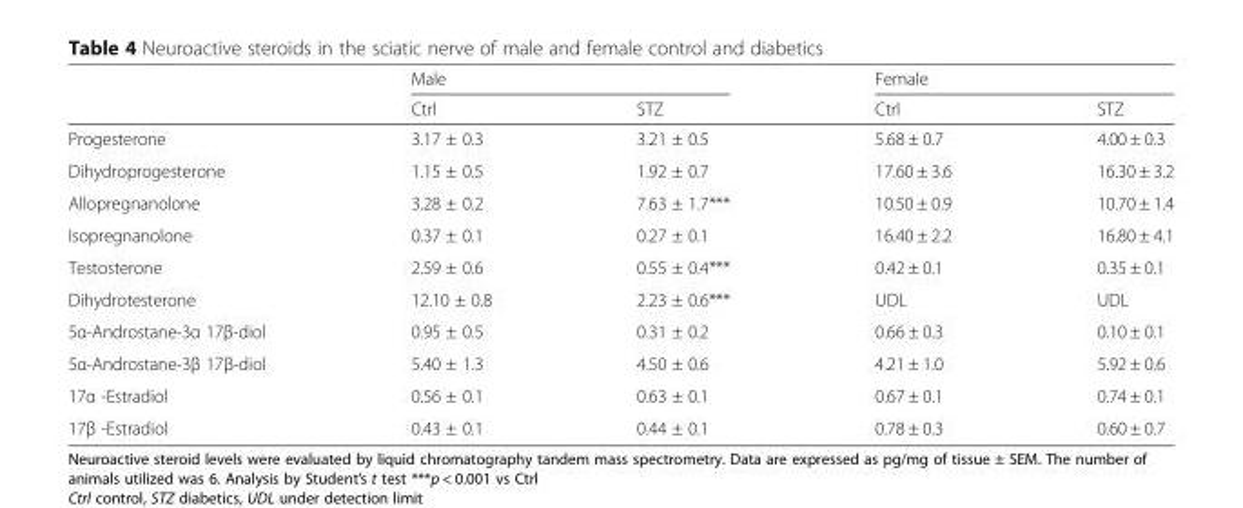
<table><thead><tr><td rowspan="2"></td><td colspan="2">Male</td><td colspan="2">Female</td></tr><tr><td>Ctrl</td><td>STZ</td><td>Ctrl</td><td>STZ</td></tr></thead><tbody><tr><td>Progesterone</td><td>3.17 ± 0.3</td><td>3.21 ± 0.5</td><td>5.68 ± 0.7</td><td>4.00 ± 0.3</td></tr><tr><td>Dihydroprogesterone</td><td>1.15 ± 0.5</td><td>1.92 ± 0.7</td><td>17.60 ± 3.6</td><td>16.30 ± 3.2</td></tr><tr><td>Allopregnanolone</td><td>3.28 ± 0.2</td><td>7.63 ± 1.7***</td><td>10.50 ± 0.9</td><td>10.70 ± 1.4</td></tr><tr><td>Isopregnanolone</td><td>0.37 ± 0.1</td><td>0.27 ± 0.1</td><td>16.40 ± 2.2</td><td>16.80 ± 4.1</td></tr><tr><td>Testosterone</td><td>2.59 ± 0.6</td><td>0.55 ± 0.4***</td><td>0.42 ± 0.1</td><td>0.35 ± 0.1</td></tr><tr><td>Dihydrotesterone</td><td>12.10 ± 0.8</td><td>2.23 ± 0.6***</td><td>UDL</td><td>UDL</td></tr><tr><td>5α-Androstane-3α 17β-diol</td><td>0.95 ± 0.5</td><td>0.31 ± 0.2</td><td>0.66 ± 0.3</td><td>0.10 ± 0.1</td></tr><tr><td>5α-Androstane-3β 17β-diol</td><td>5.40 ± 1.3</td><td>4.50 ± 0.6</td><td>4.21 ± 1.0</td><td>5.92 ± 0.6</td></tr><tr><td>17α -Estradiol</td><td>0.56 ± 0.1</td><td>0.63 ± 0.1</td><td>0.67 ± 0.1</td><td>0.74 ± 0.1</td></tr><tr><td>17β -Estradiol</td><td>0.43 ± 0.1</td><td>0.44 ± 0.1</td><td>0.78 ± 0.3</td><td>0.60 ± 0.7</td></tr></tbody></table>